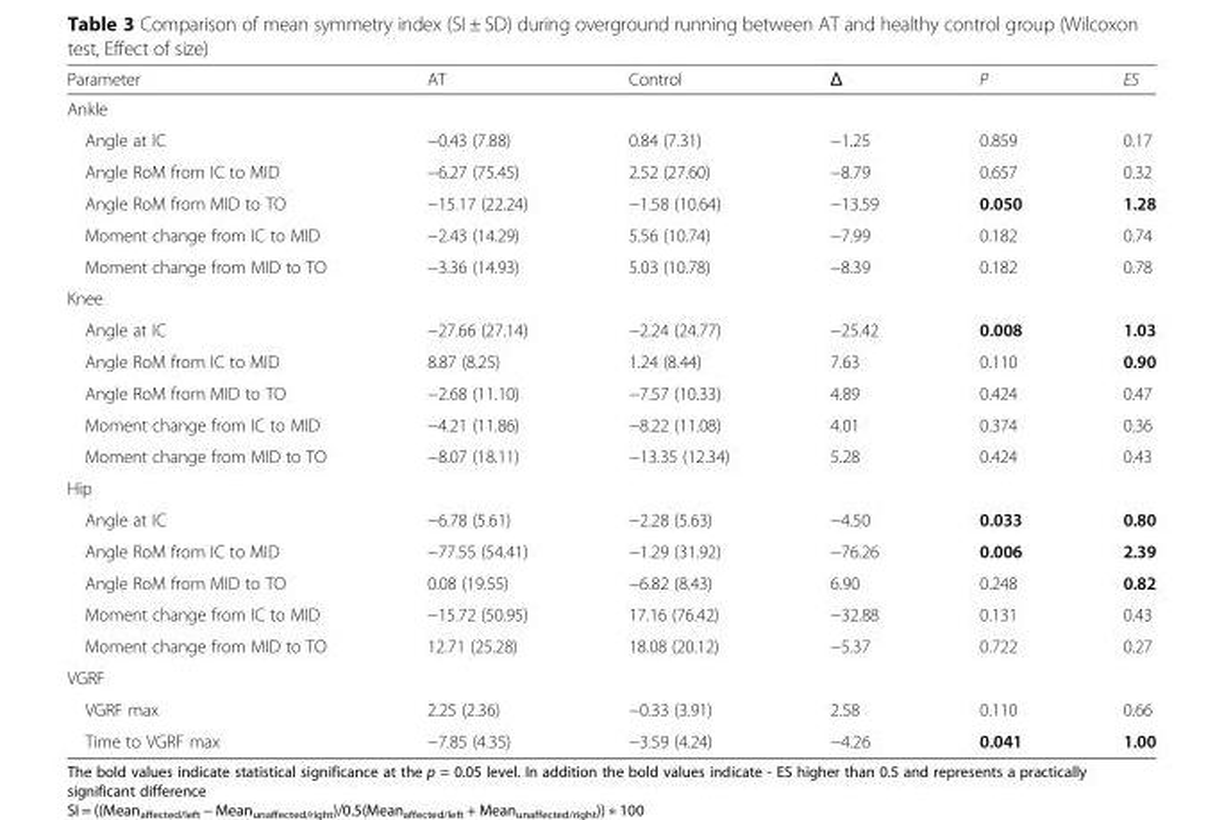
<table><thead><tr><td>Parameter</td><td>AT</td><td>Control</td><td>Δ</td><td>P</td><td>ES</td></tr></thead><tbody><tr><td colspan="6">Ankle</td></tr><tr><td>Angle at IC</td><td>−0.43 (7.88)</td><td>0.84 (7.31)</td><td>−1.25</td><td>0.859</td><td>0.17</td></tr><tr><td>Angle RoM from IC to MID</td><td>−6.27 (75.45)</td><td>2.52 (27.60)</td><td>−8.79</td><td>0.657</td><td>0.32</td></tr><tr><td>Angle RoM from MID to TO</td><td>−15.17 (22.24)</td><td>−1.58 (10.64)</td><td>−13.59</td><td>0.050</td><td>1.28</td></tr><tr><td>Moment change from IC to MID</td><td>−2.43 (14.29)</td><td>5.56 (10.74)</td><td>−7.99</td><td>0.182</td><td>0.74</td></tr><tr><td>Moment change from MID to TO</td><td>−3.36 (14.93)</td><td>5.03 (10.78)</td><td>−8.39</td><td>0.182</td><td>0.78</td></tr><tr><td colspan="6">Knee</td></tr><tr><td>Angle at IC</td><td>−27.66 (27.14)</td><td>−2.24 (24.77)</td><td>−25.42</td><td>0.008</td><td>1.03</td></tr><tr><td>Angle RoM from IC to MID</td><td>8.87 (8.25)</td><td>1.24 (8.44)</td><td>7.63</td><td>0.110</td><td>0.90</td></tr><tr><td>Angle RoM from MID to TO</td><td>−2.68 (11.10)</td><td>−7.57 (10.33)</td><td>4.89</td><td>0.424</td><td>0.47</td></tr><tr><td>Moment change from IC to MID</td><td>−4.21 (11.86)</td><td>−8.22 (11.08)</td><td>4.01</td><td>0.374</td><td>0.36</td></tr><tr><td>Moment change from MID to TO</td><td>−8.07 (18.11)</td><td>−13.35 (12.34)</td><td>5.28</td><td>0.424</td><td>0.43</td></tr><tr><td colspan="6">Hip</td></tr><tr><td>Angle at IC</td><td>−6.78 (5.61)</td><td>−2.28 (5.63)</td><td>−4.50</td><td>0.033</td><td>0.80</td></tr><tr><td>Angle RoM from IC to MID</td><td>−77.55 (54.41)</td><td>−1.29 (31.92)</td><td>−76.26</td><td>0.006</td><td>2.39</td></tr><tr><td>Angle RoM from MID to TO</td><td>0.08 (19.55)</td><td>−6.82 (8.43)</td><td>6.90</td><td>0.248</td><td>0.82</td></tr><tr><td>Moment change from IC to MID</td><td>−15.72 (50.95)</td><td>17.16 (76.42)</td><td>−32.88</td><td>0.131</td><td>0.43</td></tr><tr><td>Moment change from MID to TO</td><td>12.71 (25.28)</td><td>18.08 (20.12)</td><td>−5.37</td><td>0.722</td><td>0.27</td></tr><tr><td colspan="6">VGRF</td></tr><tr><td>VGRF max</td><td>2.25 (2.36)</td><td>−0.33 (3.91)</td><td>2.58</td><td>0.110</td><td>0.66</td></tr><tr><td>Time to VGRF max</td><td>−7.85 (4.35)</td><td>−3.59 (4.24)</td><td>−4.26</td><td>0.041</td><td>1.00</td></tr></tbody></table>